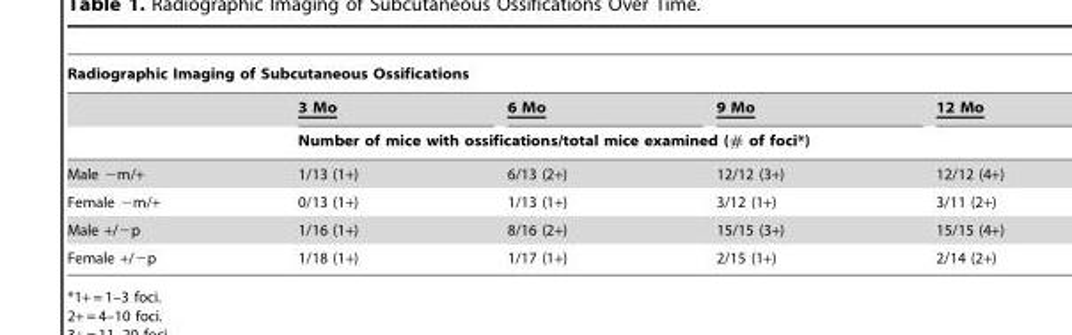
<table><thead><tr><td colspan="5">Radiographic Imaging of Subcutaneous Ossifications</td></tr><tr><td rowspan="2"></td><td>3 Mo</td><td>6 Mo</td><td>9 Mo</td><td>12 Mo</td></tr><tr><td colspan="4">Number of mice with ossifications/total mice examined (# of foci*)</td></tr></thead><tbody><tr><td>Male −m/+</td><td>1/13 (1+)</td><td>6/13 (2+)</td><td>12/12 (3+)</td><td>12/12 (4+)</td></tr><tr><td>Female −m/+</td><td>0/13 (1+)</td><td>1/13 (1+)</td><td>3/12 (1+)</td><td>3/11 (2+)</td></tr><tr><td>Male +/−p</td><td>1/16 (1+)</td><td>8/16 (2+)</td><td>15/15 (3+)</td><td>15/15 (4+)</td></tr><tr><td>Female +/−p</td><td>1/18 (1+)</td><td>1/17 (1+)</td><td>2/15 (1+)</td><td>2/14 (2+)</td></tr></tbody></table>